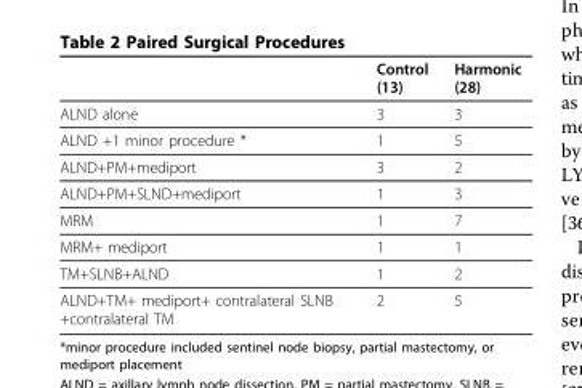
<table><thead><tr><td></td><td>Control (13)</td><td>Harmonic (28)</td></tr></thead><tbody><tr><td>ALND alone</td><td>3</td><td>3</td></tr><tr><td>ALND +1 minor procedure *</td><td>1</td><td>5</td></tr><tr><td>ALND+PM+mediport</td><td>3</td><td>2</td></tr><tr><td>ALND+PM+SLND+mediport</td><td>1</td><td>3</td></tr><tr><td>MRM</td><td>1</td><td>7</td></tr><tr><td>MRM+ mediport</td><td>1</td><td>1</td></tr><tr><td>TM+SLNB+ALND</td><td>1</td><td>2</td></tr><tr><td>ALND+TM+ mediport+ contralateral SLNB +contralateral TM</td><td>2</td><td>5</td></tr></tbody></table>